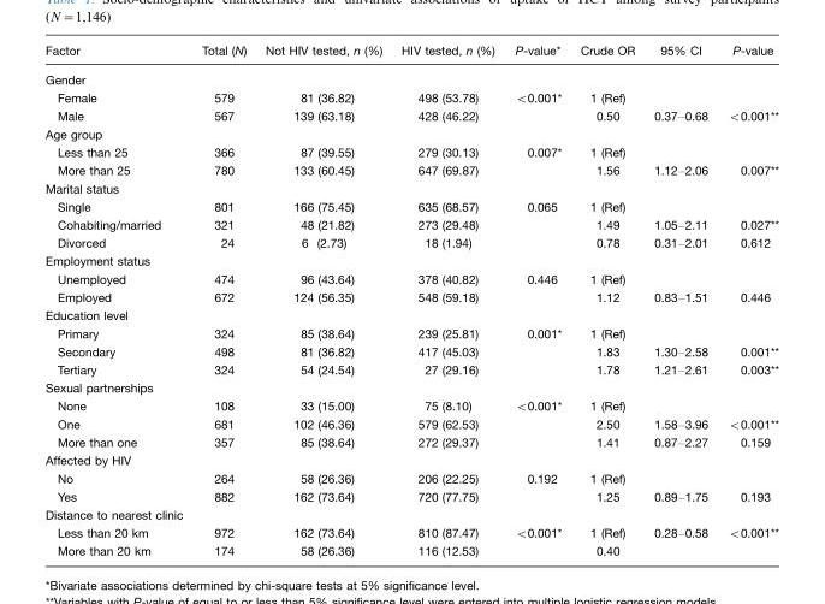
<table><thead><tr><td>Factor</td><td>Total (N)</td><td>Not HIV tested, n (%)</td><td>HIV tested, n (%)</td><td>P-value*</td><td>Crude OR</td><td>95% CI</td><td>P-value</td></tr></thead><tbody><tr><td colspan="8">Gender</td></tr><tr><td>Female</td><td>579</td><td>81 (36.82)</td><td>498 (53.78)</td><td>&lt;0.001*</td><td>1 (Ref)</td><td></td><td></td></tr><tr><td>Male</td><td>567</td><td>139 (63.18)</td><td>428 (46.22)</td><td></td><td>0.50</td><td>0.37–0.68</td><td>&lt;0.001**</td></tr><tr><td colspan="8">Age group</td></tr><tr><td>Less than 25</td><td>366</td><td>87 (39.55)</td><td>279 (30.13)</td><td>0.007*</td><td>1 (Ref)</td><td></td><td></td></tr><tr><td>More than 25</td><td>780</td><td>133 (60.45)</td><td>647 (69.87)</td><td></td><td>1.56</td><td>1.12–2.06</td><td>0.007**</td></tr><tr><td colspan="8">Marital status</td></tr><tr><td>Single</td><td>801</td><td>166 (75.45)</td><td>635 (68.57)</td><td>0.065</td><td>1 (Ref)</td><td></td><td></td></tr><tr><td>Cohabiting/married</td><td>321</td><td>48 (21.82)</td><td>273 (29.48)</td><td></td><td>1.49</td><td>1.05–2.11</td><td>0.027**</td></tr><tr><td>Divorced</td><td>24</td><td>6 (2.73)</td><td>18 (1.94)</td><td></td><td>0.78</td><td>0.31–2.01</td><td>0.612</td></tr><tr><td colspan="8">Employment status</td></tr><tr><td>Unemployed</td><td>474</td><td>96 (43.64)</td><td>378 (40.82)</td><td>0.446</td><td>1 (Ref)</td><td></td><td></td></tr><tr><td>Employed</td><td>672</td><td>124 (56.35)</td><td>548 (59.18)</td><td></td><td>1.12</td><td>0.83–1.51</td><td>0.446</td></tr><tr><td colspan="8">Education level</td></tr><tr><td>Primary</td><td>324</td><td>85 (38.64)</td><td>239 (25.81)</td><td>0.001*</td><td>1 (Ref)</td><td></td><td></td></tr><tr><td>Secondary</td><td>498</td><td>81 (36.82)</td><td>417 (45.03)</td><td></td><td>1.83</td><td>1.30–2.58</td><td>0.001**</td></tr><tr><td>Tertiary</td><td>324</td><td>54 (24.54)</td><td>27 (29.16)</td><td></td><td>1.78</td><td>1.21–2.61</td><td>0.003**</td></tr><tr><td colspan="8">Sexual partnerships</td></tr><tr><td>None</td><td>108</td><td>33 (15.00)</td><td>75 (8.10)</td><td>&lt;0.001*</td><td>1 (Ref)</td><td></td><td></td></tr><tr><td>One</td><td>681</td><td>102 (46.36)</td><td>579 (62.53)</td><td></td><td>2.50</td><td>1.58–3.96</td><td>&lt;0.001**</td></tr><tr><td>More than one</td><td>357</td><td>85 (38.64)</td><td>272 (29.37)</td><td></td><td>1.41</td><td>0.87–2.27</td><td>0.159</td></tr><tr><td colspan="8">Affected by HIV</td></tr><tr><td>No</td><td>264</td><td>58 (26.36)</td><td>206 (22.25)</td><td>0.192</td><td>1 (Ref)</td><td></td><td></td></tr><tr><td>Yes</td><td>882</td><td>162 (73.64)</td><td>720 (77.75)</td><td></td><td>1.25</td><td>0.89–1.75</td><td>0.193</td></tr><tr><td colspan="8">Distance to nearest clinic</td></tr><tr><td>Less than 20 km</td><td>972</td><td>162 (73.64)</td><td>810 (87.47)</td><td>&lt;0.001*</td><td>1 (Ref)</td><td>0.28–0.58</td><td>&lt;0.001**</td></tr><tr><td>More than 20 km</td><td>174</td><td>58 (26.36)</td><td>116 (12.53)</td><td></td><td>0.40</td><td></td><td></td></tr></tbody></table>